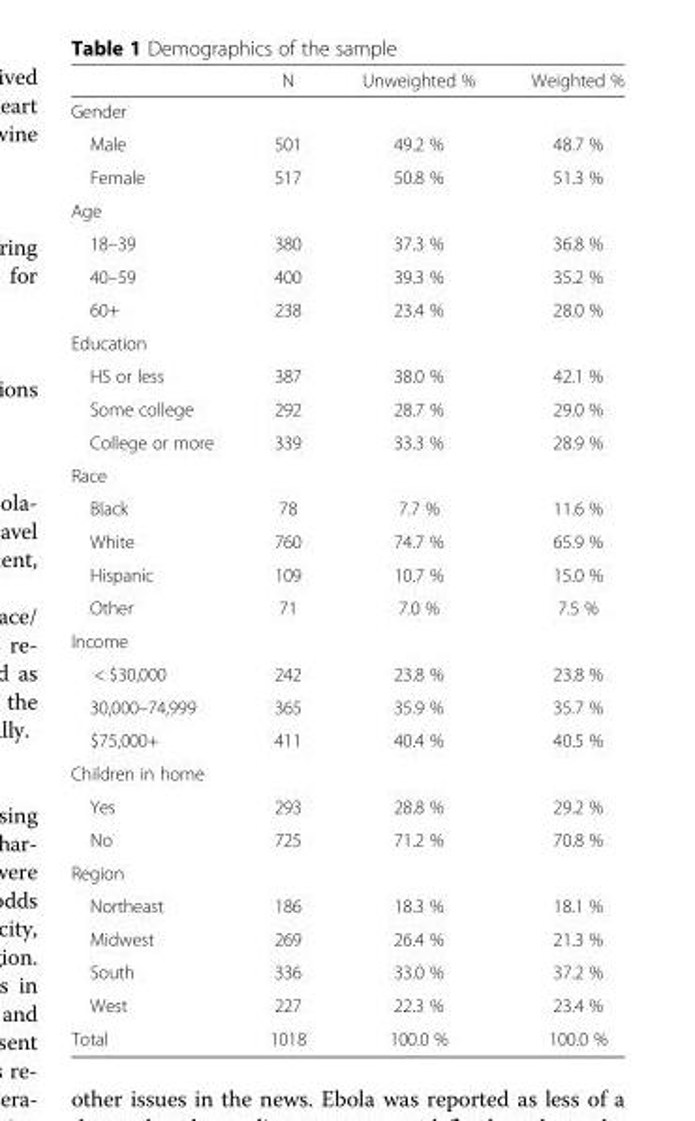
<table><thead><tr><td></td><td>N</td><td>Unweighted %</td><td>Weighted %</td></tr></thead><tbody><tr><td colspan="4">Gender</td></tr><tr><td>Male</td><td>501</td><td>49.2 %</td><td>48.7 %</td></tr><tr><td>Female</td><td>517</td><td>50.8 %</td><td>51.3 %</td></tr><tr><td colspan="4">Age</td></tr><tr><td>18–39</td><td>380</td><td>37.3 %</td><td>36.8 %</td></tr><tr><td>40–59</td><td>400</td><td>39.3 %</td><td>35.2 %</td></tr><tr><td>60+</td><td>238</td><td>23.4 %</td><td>28.0 %</td></tr><tr><td colspan="4">Education</td></tr><tr><td>HS or less</td><td>387</td><td>38.0 %</td><td>42.1 %</td></tr><tr><td>Some college</td><td>292</td><td>28.7 %</td><td>29.0 %</td></tr><tr><td>College or more</td><td>339</td><td>33.3 %</td><td>28.9 %</td></tr><tr><td colspan="4">Race</td></tr><tr><td>Black</td><td>78</td><td>7.7 %</td><td>11.6 %</td></tr><tr><td>White</td><td>760</td><td>74.7 %</td><td>65.9 %</td></tr><tr><td>Hispanic</td><td>109</td><td>10.7 %</td><td>15.0 %</td></tr><tr><td>Other</td><td>71</td><td>7.0 %</td><td>7.5 %</td></tr><tr><td colspan="4">Income</td></tr><tr><td>&lt; $30,000</td><td>242</td><td>23.8 %</td><td>23.8 %</td></tr><tr><td>30,000–74,999</td><td>365</td><td>35.9 %</td><td>35.7 %</td></tr><tr><td>$75,000+</td><td>411</td><td>40.4 %</td><td>40.5 %</td></tr><tr><td colspan="4">Children in home</td></tr><tr><td>Yes</td><td>293</td><td>28.8 %</td><td>29.2 %</td></tr><tr><td>No</td><td>725</td><td>71.2 %</td><td>70.8 %</td></tr><tr><td colspan="4">Region</td></tr><tr><td>Northeast</td><td>186</td><td>18.3 %</td><td>18.1 %</td></tr><tr><td>Midwest</td><td>269</td><td>26.4 %</td><td>21.3 %</td></tr><tr><td>South</td><td>336</td><td>33.0 %</td><td>37.2 %</td></tr><tr><td>West</td><td>227</td><td>22.3 %</td><td>23.4 %</td></tr><tr><td>Total</td><td>1018</td><td>100.0 %</td><td>100.0 %</td></tr></tbody></table>